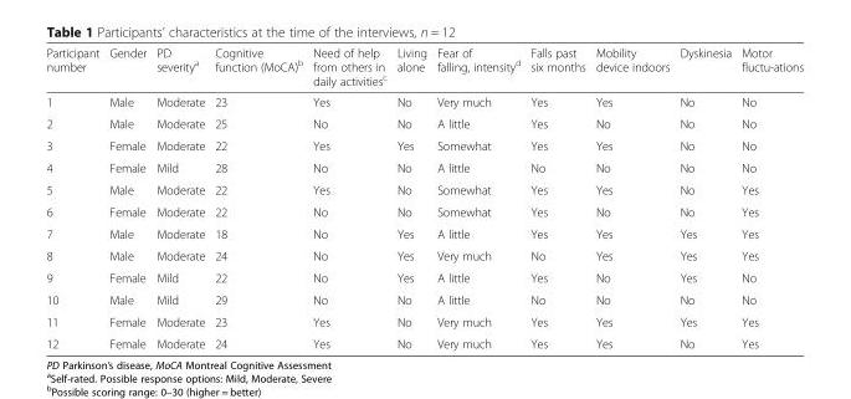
<table><thead><tr><td>Participant number</td><td>Gender</td><td>PD severity<sup>a</sup></td><td>Cognitive function (MoCA)<sup>b</sup></td><td>Need of help from others in daily activities<sup>c</sup></td><td>Living alone</td><td>Fear of falling, intensity<sup>d</sup></td><td>Falls past six months</td><td>Mobility device indoors</td><td>Dyskinesia</td><td>Motor fluctu-ations</td></tr></thead><tbody><tr><td>1</td><td>Male</td><td>Moderate</td><td>23</td><td>Yes</td><td>No</td><td>Very much</td><td>Yes</td><td>Yes</td><td>No</td><td>No</td></tr><tr><td>2</td><td>Male</td><td>Moderate</td><td>25</td><td>No</td><td>No</td><td>A little</td><td>Yes</td><td>No</td><td>No</td><td>No</td></tr><tr><td>3</td><td>Female</td><td>Moderate</td><td>22</td><td>Yes</td><td>Yes</td><td>Somewhat</td><td>Yes</td><td>Yes</td><td>No</td><td>No</td></tr><tr><td>4</td><td>Female</td><td>Mild</td><td>28</td><td>No</td><td>No</td><td>A little</td><td>No</td><td>No</td><td>No</td><td>No</td></tr><tr><td>5</td><td>Male</td><td>Moderate</td><td>22</td><td>Yes</td><td>No</td><td>Somewhat</td><td>Yes</td><td>Yes</td><td>No</td><td>Yes</td></tr><tr><td>6</td><td>Female</td><td>Moderate</td><td>22</td><td>No</td><td>No</td><td>Somewhat</td><td>Yes</td><td>No</td><td>No</td><td>Yes</td></tr><tr><td>7</td><td>Male</td><td>Moderate</td><td>18</td><td>No</td><td>Yes</td><td>A little</td><td>Yes</td><td>Yes</td><td>Yes</td><td>Yes</td></tr><tr><td>8</td><td>Male</td><td>Moderate</td><td>24</td><td>No</td><td>Yes</td><td>Very much</td><td>No</td><td>Yes</td><td>Yes</td><td>Yes</td></tr><tr><td>9</td><td>Female</td><td>Mild</td><td>22</td><td>No</td><td>Yes</td><td>A little</td><td>Yes</td><td>No</td><td>Yes</td><td>No</td></tr><tr><td>10</td><td>Male</td><td>Mild</td><td>29</td><td>No</td><td>No</td><td>A little</td><td>No</td><td>No</td><td>No</td><td>No</td></tr><tr><td>11</td><td>Female</td><td>Moderate</td><td>23</td><td>Yes</td><td>No</td><td>Very much</td><td>Yes</td><td>Yes</td><td>Yes</td><td>Yes</td></tr><tr><td>12</td><td>Female</td><td>Moderate</td><td>24</td><td>Yes</td><td>No</td><td>Very much</td><td>Yes</td><td>Yes</td><td>No</td><td>Yes</td></tr></tbody></table>